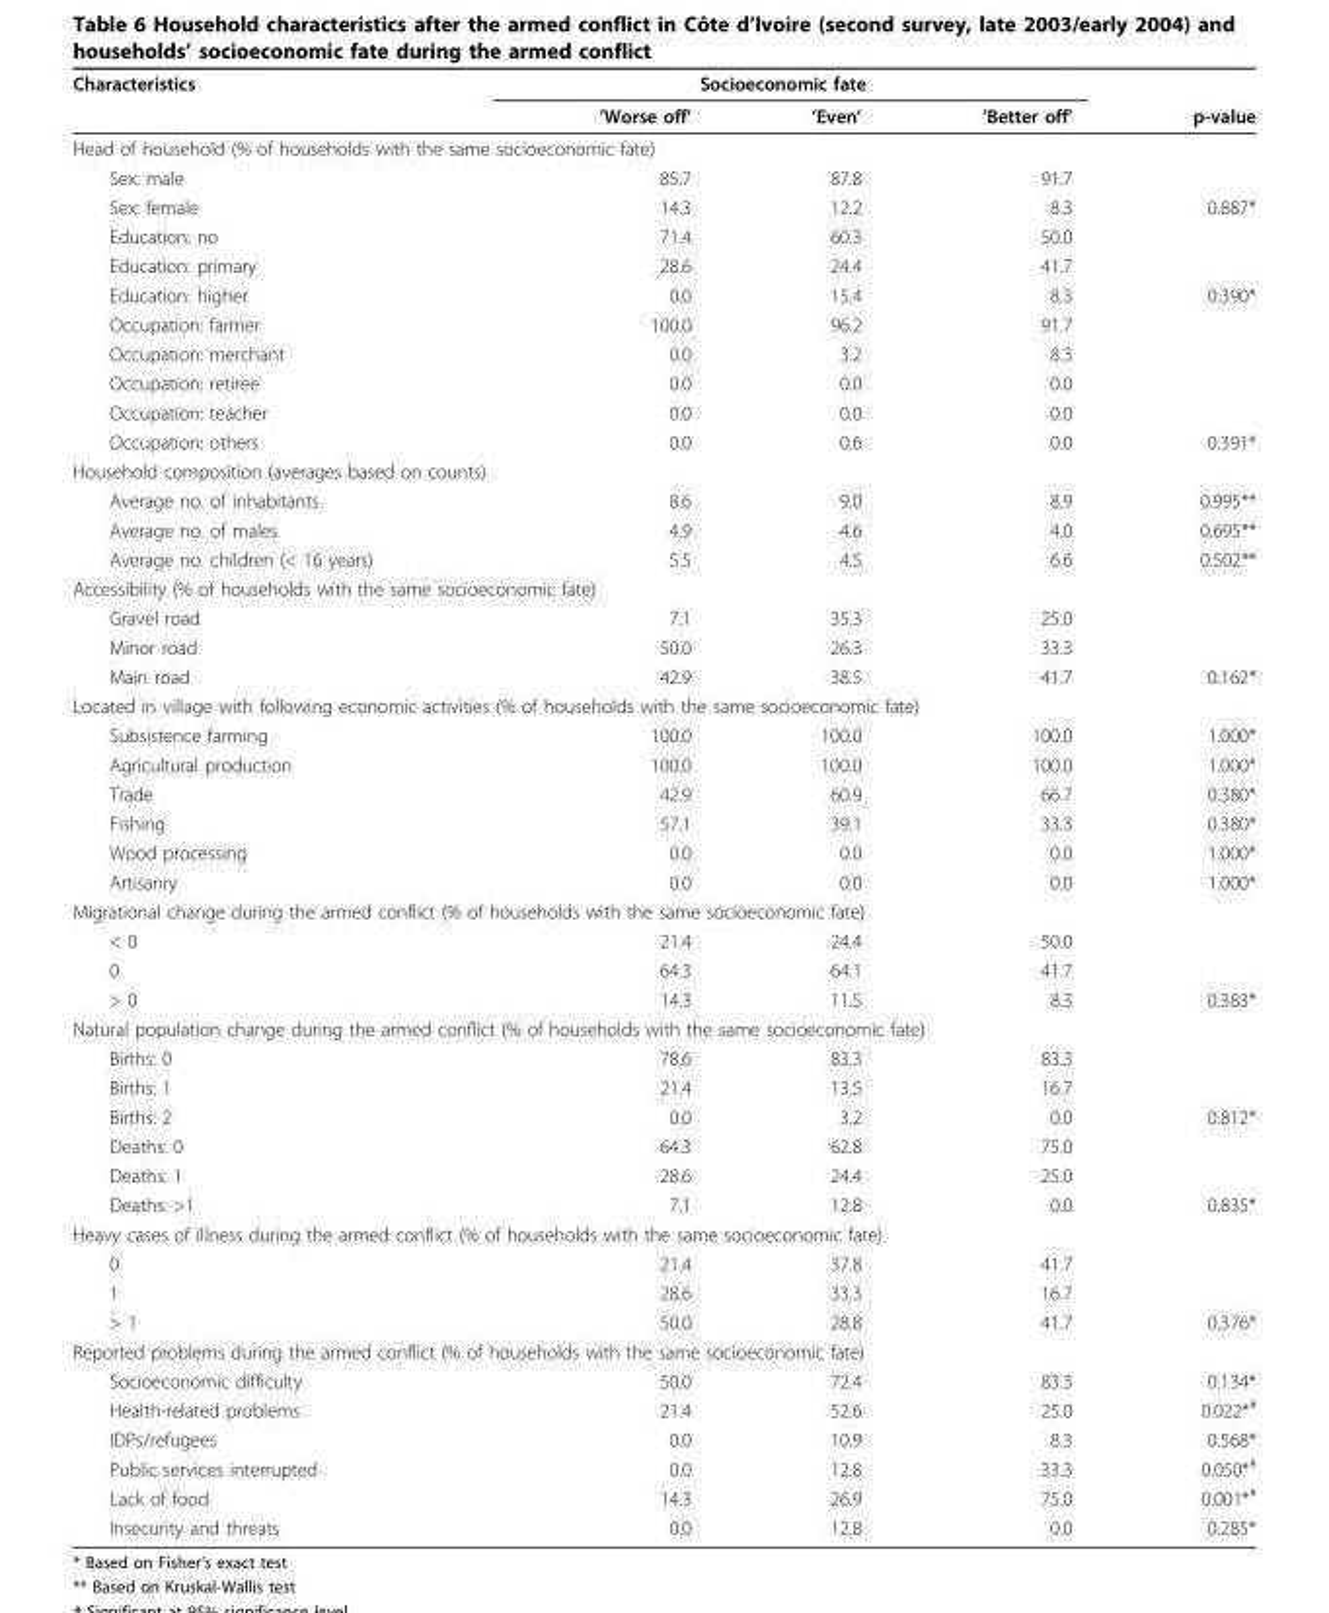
<table><thead><tr><td rowspan="2">Characteristics</td><td colspan="3">Socioeconomic fate</td><td rowspan="2">p-value</td></tr><tr><td>’Worse off’</td><td>’Even’</td><td>’Better off’</td></tr></thead><tbody><tr><td colspan="5">Head of household (% of households with the same socioeconomic fate)</td></tr><tr><td>Sex: male</td><td>85.7</td><td>87.8</td><td>91.7</td><td></td></tr><tr><td>Sex: female</td><td>14.3</td><td>12.2</td><td>8.3</td><td>0.887*</td></tr><tr><td>Education: no</td><td>71.4</td><td>60.3</td><td>50.0</td><td></td></tr><tr><td>Education: primary</td><td>28.6</td><td>24.4</td><td>41.7</td><td></td></tr><tr><td>Education: higher</td><td>0.0</td><td>15.4</td><td>8.3</td><td>0.390*</td></tr><tr><td>Occupation: farmer</td><td>100.0</td><td>96.2</td><td>91.7</td><td></td></tr><tr><td>Occupation: merchant</td><td>0.0</td><td>3.2</td><td>8.3</td><td></td></tr><tr><td>Occupation: retiree</td><td>0.0</td><td>0.0</td><td>0.0</td><td></td></tr><tr><td>Occupation: teacher</td><td>0.0</td><td>0.0</td><td>0.0</td><td></td></tr><tr><td>Occupation: others</td><td>0.0</td><td>0.6</td><td>0.0</td><td>0.391*</td></tr><tr><td colspan="5">Household composition (averages based on counts)</td></tr><tr><td>Average no. of inhabitants</td><td>8.6</td><td>9.0</td><td>8.9</td><td>0.995**</td></tr><tr><td>Average no. of males</td><td>4.9</td><td>4.6</td><td>4.0</td><td>0.695**</td></tr><tr><td>Average no. children (&lt; 16 years)</td><td>5.5</td><td>4.5</td><td>6.6</td><td>0.502**</td></tr><tr><td colspan="5">Accessibility (% of households with the same socioeconomic fate)</td></tr><tr><td>Gravel road</td><td>7.1</td><td>35.3</td><td>25.0</td><td></td></tr><tr><td>Minor road</td><td>50.0</td><td>26.3</td><td>33.3</td><td></td></tr><tr><td>Main road</td><td>42.9</td><td>38.5</td><td>41.7</td><td>0.162*</td></tr><tr><td colspan="5">Located in village with following economic activities (% of households with the same socioeconomic fate)</td></tr><tr><td>Subsistence farming</td><td>100.0</td><td>100.0</td><td>100.0</td><td>1.000*</td></tr><tr><td>Agricultural production</td><td>100.0</td><td>100.0</td><td>100.0</td><td>1.000*</td></tr><tr><td>Trade</td><td>42.9</td><td>60.9</td><td>66.7</td><td>0.380*</td></tr><tr><td>Fishing</td><td>57.1</td><td>39.1</td><td>33.3</td><td>0.380*</td></tr><tr><td>Wood processing</td><td>0.0</td><td>0.0</td><td>0.0</td><td>1.000*</td></tr><tr><td>Artisanry</td><td>0.0</td><td>0.0</td><td>0.0</td><td>1.000*</td></tr><tr><td colspan="5">Migrational change during the armed conflict (% of households with the same socioeconomic fate)</td></tr><tr><td>&lt; 0</td><td>21.4</td><td>24.4</td><td>50.0</td><td></td></tr><tr><td>0</td><td>64.3</td><td>64.1</td><td>41.7</td><td></td></tr><tr><td>&gt; 0</td><td>14.3</td><td>11.5</td><td>8.3</td><td>0.383*</td></tr><tr><td colspan="5">Natural population change during the armed conflict (% of households with the same socioeconomic fate)</td></tr><tr><td>Births: 0</td><td>78.6</td><td>83.3</td><td>83.3</td><td></td></tr><tr><td>Births: 1</td><td>21.4</td><td>13.5</td><td>16.7</td><td></td></tr><tr><td>Births: 2</td><td>0.0</td><td>3.2</td><td>0.0</td><td>0.812*</td></tr><tr><td>Deaths: 0</td><td>64.3</td><td>62.8</td><td>75.0</td><td></td></tr><tr><td>Deaths: 1</td><td>28.6</td><td>24.4</td><td>25.0</td><td></td></tr><tr><td>Deaths: &gt;1</td><td>7.1</td><td>12.8</td><td>0.0</td><td>0.835*</td></tr><tr><td colspan="5">Heavy cases of illness during the armed conflict (% of households with the same socioeconomic fate)</td></tr><tr><td>0</td><td>21.4</td><td>37.8</td><td>41.7</td><td></td></tr><tr><td>1</td><td>28.6</td><td>33.3</td><td>16.7</td><td></td></tr><tr><td>&gt; 1</td><td>50.0</td><td>28.8</td><td>41.7</td><td>0.376*</td></tr><tr><td colspan="5">Reported problems during the armed conflict (% of households with the same socioeconomic fate)</td></tr><tr><td>Socioeconomic difficulty</td><td>50.0</td><td>72.4</td><td>83.3</td><td>0.134*</td></tr><tr><td>Health-related problems</td><td>21.4</td><td>52.6</td><td>25.0</td><td>0.022*<sup>#</sup></td></tr><tr><td>IDPs/refugees</td><td>0.0</td><td>10.9</td><td>8.3</td><td>0.568*</td></tr><tr><td>Public services interrupted</td><td>0.0</td><td>12.8</td><td>33.3</td><td>0.050*<sup>#</sup></td></tr><tr><td>Lack of food</td><td>14.3</td><td>26.9</td><td>75.0</td><td>0.001*<sup>#</sup></td></tr><tr><td>Insecurity and threats</td><td>0.0</td><td>12.8</td><td>0.0</td><td>0.285*</td></tr></tbody></table>